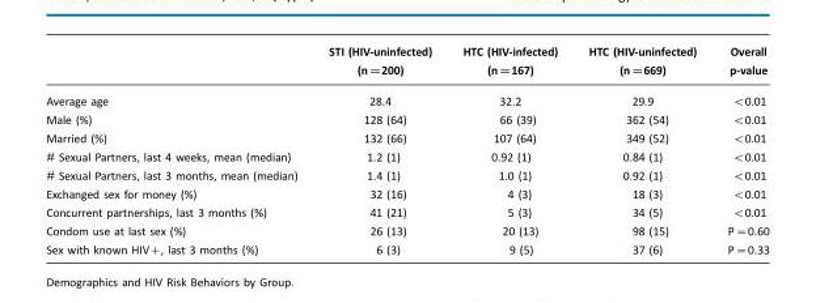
<table><thead><tr><td></td><td>STI (HIV-uninfected) (n=200)</td><td>HTC (HIV-infected) (n=167)</td><td>HTC (HIV-uninfected) (n=669)</td><td>Overall p-value</td></tr></thead><tbody><tr><td>Average age</td><td>28.4</td><td>32.2</td><td>29.9</td><td>&lt;0.01</td></tr><tr><td>Male (%)</td><td>128 (64)</td><td>66 (39)</td><td>362 (54)</td><td>&lt;0.01</td></tr><tr><td>Married (%)</td><td>132 (66)</td><td>107 (64)</td><td>349 (52)</td><td>&lt;0.01</td></tr><tr><td># Sexual Partners, last 4 weeks, mean (median)</td><td>1.2 (1)</td><td>0.92 (1)</td><td>0.84 (1)</td><td>&lt;0.01</td></tr><tr><td># Sexual Partners, last 3 months, mean (median)</td><td>1.4 (1)</td><td>1.0 (1)</td><td>0.92 (1)</td><td>&lt;0.01</td></tr><tr><td>Exchanged sex for money (%)</td><td>32 (16)</td><td>4 (3)</td><td>18 (3)</td><td>&lt;0.01</td></tr><tr><td>Concurrent partnerships, last 3 months (%)</td><td>41 (21)</td><td>5 (3)</td><td>34 (5)</td><td>&lt;0.01</td></tr><tr><td>Condom use at last sex (%)</td><td>26 (13)</td><td>20 (13)</td><td>98 (15)</td><td>P=0.60</td></tr><tr><td>Sex with known HIV+, last 3 months (%)</td><td>6 (3)</td><td>9 (5)</td><td>37 (6)</td><td>P=0.33</td></tr></tbody></table>